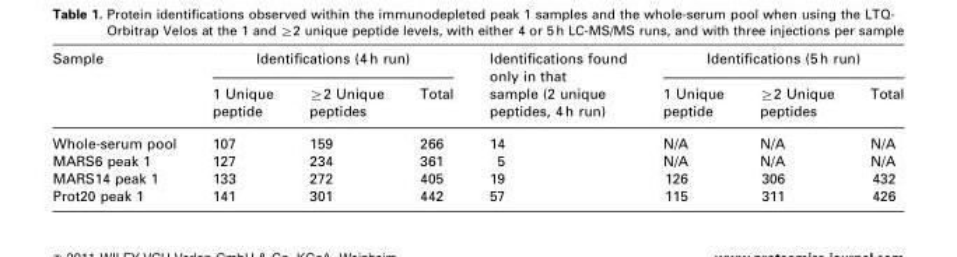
<table><thead><tr><td rowspan="2">Sample</td><td colspan="3">Identifications (4 h run)</td><td rowspan="2">Identifications found only in that sample (2 unique peptides, 4 h run)</td><td colspan="3">Identifications (5 h run)</td></tr><tr><td>1 Unique peptide</td><td>≥2 Unique peptides</td><td>Total</td><td>1 Unique peptide</td><td>≥2 Unique peptides</td><td>Total</td></tr></thead><tbody><tr><td>Whole-serum pool</td><td>107</td><td>159</td><td>266</td><td>14</td><td>N/A</td><td>N/A</td><td>N/A</td></tr><tr><td>MARS6 peak 1</td><td>127</td><td>234</td><td>361</td><td>5</td><td>N/A</td><td>N/A</td><td>N/A</td></tr><tr><td>MARS14 peak 1</td><td>133</td><td>272</td><td>405</td><td>19</td><td>126</td><td>306</td><td>432</td></tr><tr><td>Prot20 peak 1</td><td>141</td><td>301</td><td>442</td><td>57</td><td>115</td><td>311</td><td>426</td></tr></tbody></table>